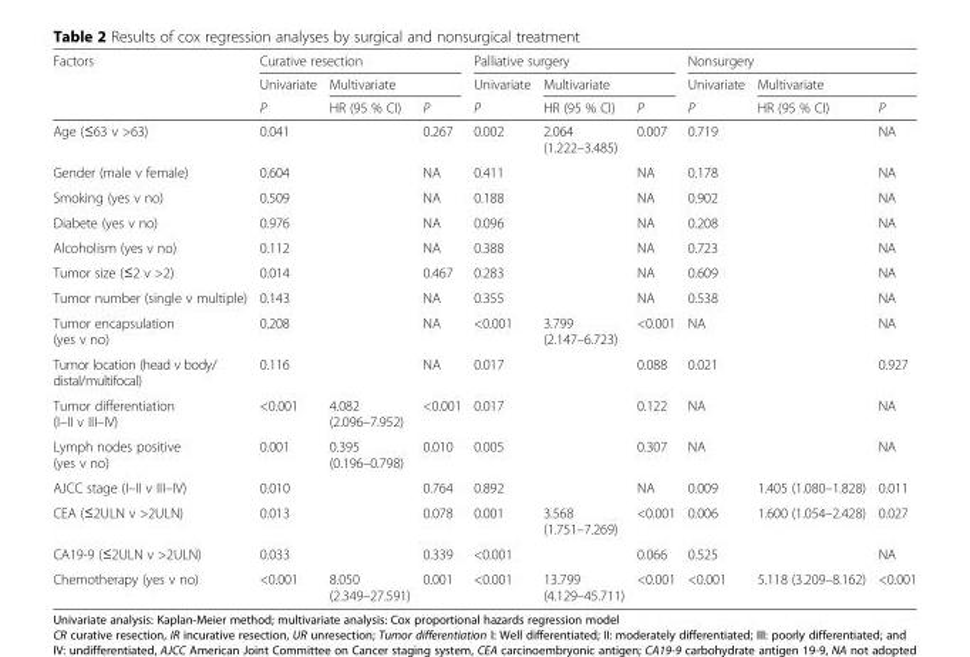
<table><thead><tr><td rowspan="3">Factors</td><td colspan="3">Curative resection</td><td colspan="3">Palliative surgery</td><td colspan="3">Nonsurgery</td></tr><tr><td rowspan="2">Univariate P</td><td colspan="2">Multivariate</td><td rowspan="2">Univariate P</td><td colspan="2">Multivariate</td><td rowspan="2">Univariate P</td><td colspan="2">Multivariate</td></tr><tr><td>HR (95 % CI)</td><td>P</td><td>HR (95 % CI)</td><td>P</td><td>HR (95 % CI)</td><td>P</td></tr></thead><tbody><tr><td>Age (≤63 v &gt;63)</td><td>0.041</td><td></td><td>0.267</td><td>0.002</td><td>2.064 (1.222–3.485)</td><td>0.007</td><td>0.719</td><td></td><td>NA</td></tr><tr><td>Gender (male v female)</td><td>0.604</td><td></td><td>NA</td><td>0.411</td><td></td><td>NA</td><td>0.178</td><td></td><td>NA</td></tr><tr><td>Smoking (yes v no)</td><td>0.509</td><td></td><td>NA</td><td>0.188</td><td></td><td>NA</td><td>0.902</td><td></td><td>NA</td></tr><tr><td>Diabete (yes v no)</td><td>0.976</td><td></td><td>NA</td><td>0.096</td><td></td><td>NA</td><td>0.208</td><td></td><td>NA</td></tr><tr><td>Alcoholism (yes v no)</td><td>0.112</td><td></td><td>NA</td><td>0.388</td><td></td><td>NA</td><td>0.723</td><td></td><td>NA</td></tr><tr><td>Tumor size (≤2 v &gt;2)</td><td>0.014</td><td></td><td>0.467</td><td>0.283</td><td></td><td>NA</td><td>0.609</td><td></td><td>NA</td></tr><tr><td>Tumor number (single v multiple)</td><td>0.143</td><td></td><td>NA</td><td>0.355</td><td></td><td>NA</td><td>0.538</td><td></td><td>NA</td></tr><tr><td>Tumor encapsulation (yes v no)</td><td>0.208</td><td></td><td>NA</td><td>&lt;0.001</td><td>3.799 (2.147–6.723)</td><td>&lt;0.001</td><td>NA</td><td></td><td>NA</td></tr><tr><td>Tumor location (head v body/ distal/multifocal)</td><td>0.116</td><td></td><td>NA</td><td>0.017</td><td></td><td>0.088</td><td>0.021</td><td></td><td>0.927</td></tr><tr><td>Tumor differentiation (I–II v III–IV)</td><td>&lt;0.001</td><td>4.082 (2.096–7.952)</td><td>&lt;0.001</td><td>0.017</td><td></td><td>0.122</td><td>NA</td><td></td><td>NA</td></tr><tr><td>Lymph nodes positive (yes v no)</td><td>0.001</td><td>0.395 (0.196–0.798)</td><td>0.010</td><td>0.005</td><td></td><td>0.307</td><td>NA</td><td></td><td>NA</td></tr><tr><td>AJCC stage (I–II v III–IV)</td><td>0.010</td><td></td><td>0.764</td><td>0.892</td><td></td><td>NA</td><td>0.009</td><td>1.405 (1.080–1.828)</td><td>0.011</td></tr><tr><td>CEA (≤2ULN v &gt;2ULN)</td><td>0.013</td><td></td><td>0.078</td><td>0.001</td><td>3.568 (1.751–7.269)</td><td>&lt;0.001</td><td>0.006</td><td>1.600 (1.054–2.428)</td><td>0.027</td></tr><tr><td>CA19-9 (≤2ULN v &gt;2ULN)</td><td>0.033</td><td></td><td>0.339</td><td>&lt;0.001</td><td></td><td>0.066</td><td>0.525</td><td></td><td>NA</td></tr><tr><td>Chemotherapy (yes v no)</td><td>&lt;0.001</td><td>8.050 (2.349–27.591)</td><td>0.001</td><td>&lt;0.001</td><td>13.799 (4.129–45.711)</td><td>&lt;0.001</td><td>&lt;0.001</td><td>5.118 (3.209–8.162)</td><td>&lt;0.001</td></tr></tbody></table>